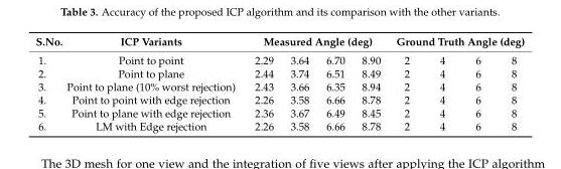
<table><thead><tr><td rowspan="2">S.No. 1.</td><td rowspan="2">ICP Variants Point to point</td><td colspan="4">Measured Angle (deg)</td><td colspan="4">Ground Truth Angle (deg)</td></tr><tr><td>2.29</td><td>3.64</td><td>6.70</td><td>8.90</td><td>2</td><td>4</td><td>6</td><td>8</td></tr></thead><tbody><tr><td>2.</td><td>Point to plane</td><td>2.44</td><td>3.74</td><td>6.51</td><td>8.49</td><td>2</td><td>4</td><td>6</td><td>8</td></tr><tr><td>3.</td><td>Point to plane (10% worst rejection)</td><td>2.43</td><td>3.66</td><td>6.35</td><td>8.94</td><td>2</td><td>4</td><td>6</td><td>8</td></tr><tr><td>4.</td><td>Point to point with edge rejection</td><td>2.26</td><td>3.58</td><td>6.66</td><td>8.78</td><td>2</td><td>4</td><td>6</td><td>8</td></tr><tr><td>5.</td><td>Point to plane with edge rejection</td><td>2.36</td><td>3.67</td><td>6.49</td><td>8.45</td><td>2</td><td>4</td><td>6</td><td>8</td></tr><tr><td>6.</td><td>LM with Edge rejection</td><td>2.26</td><td>3.58</td><td>6.66</td><td>8.78</td><td>2</td><td>4</td><td>6</td><td>8</td></tr></tbody></table>